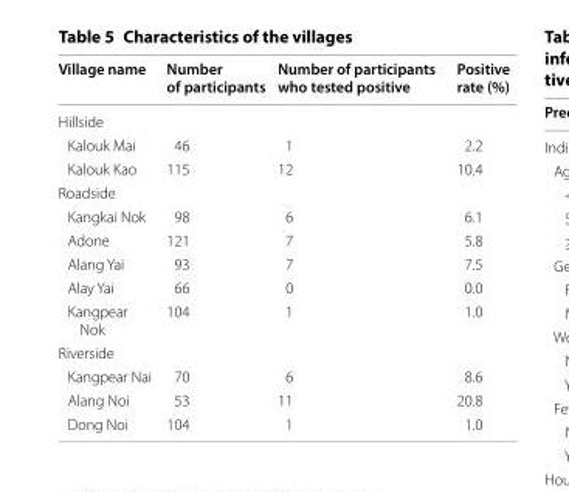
<table><thead><tr><td>Village name</td><td>Number of participants</td><td>Number of participants who tested positive</td><td>Positive rate (%)</td></tr></thead><tbody><tr><td colspan="4">Hillside</td></tr><tr><td>Kalouk Mai</td><td>46</td><td>1</td><td>2.2</td></tr><tr><td>Kalouk Kao</td><td>115</td><td>12</td><td>10.4</td></tr><tr><td colspan="4">Roadside</td></tr><tr><td>Kangkai Nok</td><td>98</td><td>6</td><td>6.1</td></tr><tr><td>Adone</td><td>121</td><td>7</td><td>5.8</td></tr><tr><td>Alang Yai</td><td>93</td><td>7</td><td>7.5</td></tr><tr><td>Alay Yai</td><td>66</td><td>0</td><td>0.0</td></tr><tr><td>Kangpear Nok</td><td>104</td><td>1</td><td>1.0</td></tr><tr><td colspan="4">Riverside</td></tr><tr><td>Kangpear Nai</td><td>70</td><td>6</td><td>8.6</td></tr><tr><td>Alang Noi</td><td>53</td><td>11</td><td>20.8</td></tr><tr><td>Dong Noi</td><td>104</td><td>1</td><td>1.0</td></tr></tbody></table>